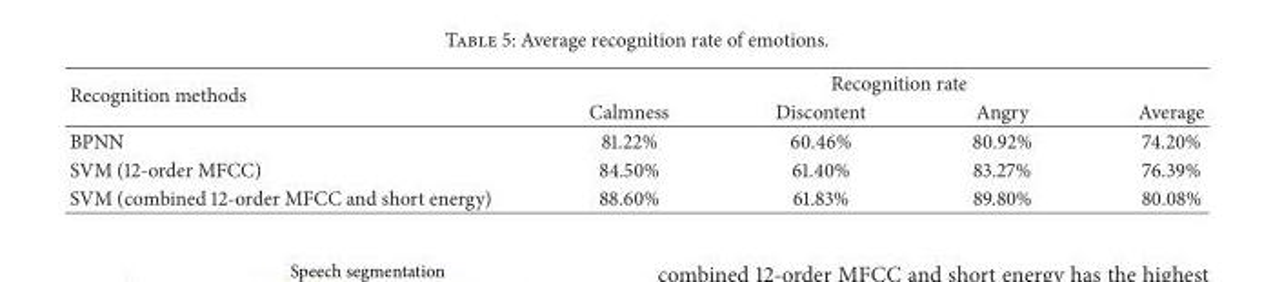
<table><thead><tr><td rowspan="2">Recognition methods</td><td colspan="4">Recognition rate</td></tr><tr><td>Calmness</td><td>Discontent</td><td>Angry</td><td>Average</td></tr></thead><tbody><tr><td>BPNN</td><td>81.22%</td><td>60.46%</td><td>80.92%</td><td>74.20%</td></tr><tr><td>SVM (12-order MFCC)</td><td>84.50%</td><td>61.40%</td><td>83.27%</td><td>76.39%</td></tr><tr><td>SVM (combined 12-order MFCC and short energy)</td><td>88.60%</td><td>61.83%</td><td>89.80%</td><td>80.08%</td></tr></tbody></table>